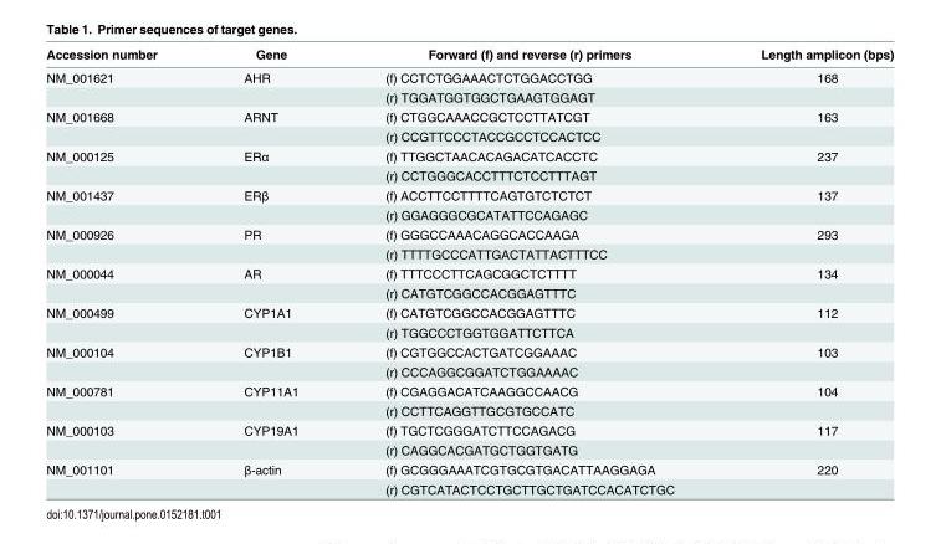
<table><thead><tr><td>Accession number</td><td>Gene</td><td>Forward (f) and reverse (r) primers</td><td>Length amplicon (bps)</td></tr></thead><tbody><tr><td rowspan="2">NM_001621</td><td>AHR</td><td>(f) CCTCTGGAAACTCTGGACCTGG</td><td>168</td></tr><tr><td></td><td>(r) TGGATGGTGGCTGAAGTGGAGT</td><td></td></tr><tr><td rowspan="2">NM_001668</td><td>ARNT</td><td>(f) CTGGCAAACCGCTCCTTATCGT</td><td>163</td></tr><tr><td></td><td>(r) CCGTTCCCTACCGCCTCCACTCC</td><td></td></tr><tr><td rowspan="2">NM_000125</td><td>ERα</td><td>(f) TTGGCTAACACAGACATCACCTC</td><td>237</td></tr><tr><td></td><td>(r) CCTGGGCACCTTTCTCCTTTAGT</td><td></td></tr><tr><td rowspan="2">NM_001437</td><td>ERβ</td><td>(f) ACCTTCCTTTTCAGTGTCTCTCT</td><td>137</td></tr><tr><td></td><td>(r) GGAGGGCGCATATTCCAGAGC</td><td></td></tr><tr><td rowspan="2">NM_000926</td><td>PR</td><td>(f) GGGCCAAACAGGCACCAAGA</td><td>293</td></tr><tr><td></td><td>(r) TTTTGCCCATTGACTATTACTTTCC</td><td></td></tr><tr><td rowspan="2">NM_000044</td><td>AR</td><td>(f) TTTCCCTTCAGCGGCTCTTTT</td><td>134</td></tr><tr><td></td><td>(r) CATGTCGGCCACGGAGTTTC</td><td></td></tr><tr><td rowspan="2">NM_000499</td><td>CYP1A1</td><td>(f) CATGTCGGCCACGGAGTTTC</td><td>112</td></tr><tr><td></td><td>(r) TGGCCCTGGTGGATTCTTCA</td><td></td></tr><tr><td rowspan="2">NM_000104</td><td>CYP1B1</td><td>(f) CGTGGCCACTGATCGGAAAC</td><td>103</td></tr><tr><td></td><td>(r) CCCAGGCGGATCTGGAAAAC</td><td></td></tr><tr><td rowspan="2">NM_000781</td><td>CYP11A1</td><td>(f) CGAGGACATCAAGGCCAACG</td><td>104</td></tr><tr><td></td><td>(r) CCTTCAGGTTGCGTGCCATC</td><td></td></tr><tr><td rowspan="2">NM_000103</td><td>CYP19A1</td><td>(f) TGCTCGGGATCTTCCAGACG</td><td>117</td></tr><tr><td></td><td>(r) CAGGCACGATGCTGGTGATG</td><td></td></tr><tr><td rowspan="2">NM_001101</td><td>β-actin</td><td>(f) GCGGGAAATCGTGCGTGACATTAAGGAGA</td><td>220</td></tr><tr><td></td><td>(r) CGTCATACTCCTGCTTGCTGATCCACATCTGC</td><td></td></tr></tbody></table>